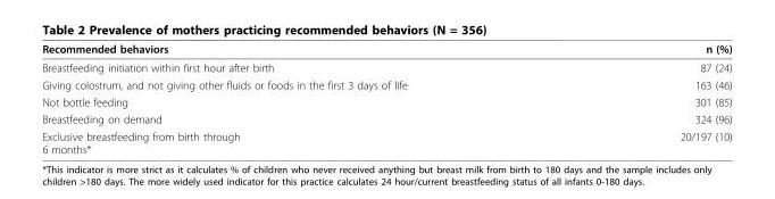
<table><thead><tr><td>Recommended behaviors</td><td>n (%)</td></tr></thead><tbody><tr><td>Breastfeeding initiation within first hour after birth</td><td>87 (24)</td></tr><tr><td>Giving colostrum, and not giving other fluids or foods in the first 3 days of life</td><td>163 (46)</td></tr><tr><td>Not bottle feeding</td><td>301 (85)</td></tr><tr><td>Breastfeeding on demand</td><td>324 (96)</td></tr><tr><td>Exclusive breastfeeding from birth through 6 months*</td><td>20/197 (10)</td></tr></tbody></table>